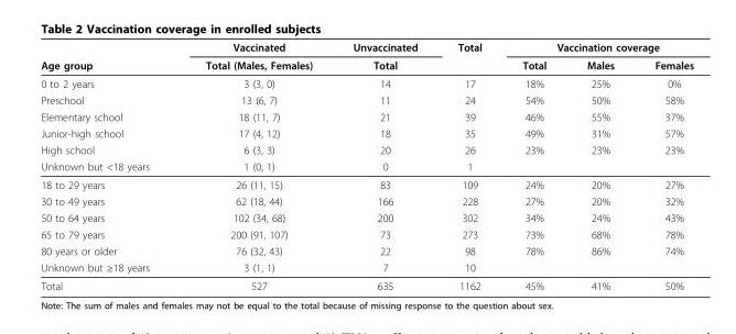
<table><thead><tr><td rowspan="2">Age group</td><td rowspan="2">Vaccinated Total (Males, Females)</td><td rowspan="2">Unvaccinated Total</td><td rowspan="2">Total</td><td colspan="3">Vaccination coverage</td></tr><tr><td>Total</td><td>Males</td><td>Females</td></tr></thead><tbody><tr><td>0 to 2 years</td><td>3 (3, 0)</td><td>14</td><td>17</td><td>18%</td><td>25%</td><td>0%</td></tr><tr><td>Preschool</td><td>13 (6, 7)</td><td>11</td><td>24</td><td>54%</td><td>50%</td><td>58%</td></tr><tr><td>Elementary school</td><td>18 (11, 7)</td><td>21</td><td>39</td><td>46%</td><td>55%</td><td>37%</td></tr><tr><td>Junior-high school</td><td>17 (4, 12)</td><td>18</td><td>35</td><td>49%</td><td>31%</td><td>57%</td></tr><tr><td>High school</td><td>6 (3, 3)</td><td>20</td><td>26</td><td>23%</td><td>23%</td><td>23%</td></tr><tr><td>Unknown but &lt;18 years</td><td>1 (0, 1)</td><td>0</td><td>1</td><td></td><td></td><td></td></tr><tr><td>18 to 29 years</td><td>26 (11, 15)</td><td>83</td><td>109</td><td>24%</td><td>20%</td><td>27%</td></tr><tr><td>30 to 49 years</td><td>62 (18, 44)</td><td>166</td><td>228</td><td>27%</td><td>20%</td><td>32%</td></tr><tr><td>50 to 64 years</td><td>102 (34, 68)</td><td>200</td><td>302</td><td>34%</td><td>24%</td><td>43%</td></tr><tr><td>65 to 79 years</td><td>200 (91, 107)</td><td>73</td><td>273</td><td>73%</td><td>68%</td><td>78%</td></tr><tr><td>80 years or older</td><td>76 (32, 43)</td><td>22</td><td>98</td><td>78%</td><td>86%</td><td>74%</td></tr><tr><td>Unknown but ≥18 years</td><td>3 (1, 1)</td><td>7</td><td>10</td><td></td><td></td><td></td></tr><tr><td>Total</td><td>527</td><td>635</td><td>1162</td><td>45%</td><td>41%</td><td>50%</td></tr></tbody></table>